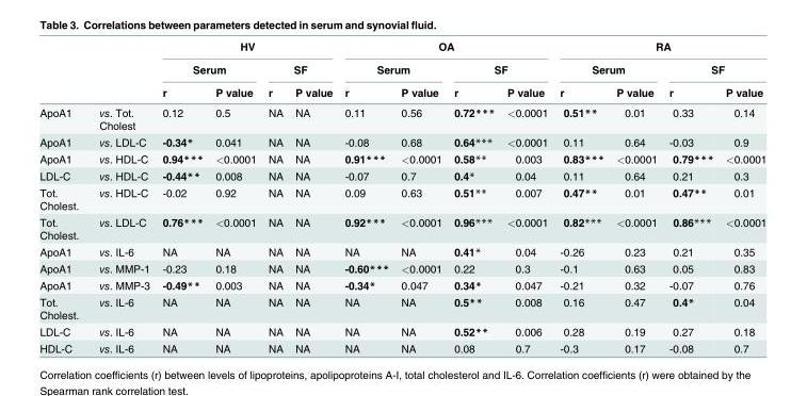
<table><thead><tr><td rowspan="3"></td><td rowspan="3"></td><td colspan="4">HV</td><td colspan="4">OA</td><td colspan="4">RA</td></tr><tr><td colspan="2">Serum</td><td colspan="2">SF</td><td colspan="2">Serum</td><td colspan="2">SF</td><td colspan="2">Serum</td><td colspan="2">SF</td></tr><tr><td>r</td><td>P value</td><td>r</td><td>P value</td><td>r</td><td>P value</td><td>r</td><td>P value</td><td>r</td><td>P value</td><td>r</td><td>P value</td></tr></thead><tbody><tr><td>ApoA1</td><td>vs. Tot. Cholest</td><td>0.12</td><td>0.5</td><td>NA</td><td>NA</td><td>0.11</td><td>0.56</td><td>0.72***</td><td>&lt;0.0001</td><td>0.51**</td><td>0.01</td><td>0.33</td><td>0.14</td></tr><tr><td>ApoA1</td><td>vs. LDL-C</td><td>-0.34*</td><td>0.041</td><td>NA</td><td>NA</td><td>-0.08</td><td>0.68</td><td>0.64***</td><td>&lt;0.0001</td><td>0.11</td><td>0.64</td><td>-0.03</td><td>0.9</td></tr><tr><td>ApoA1</td><td>vs. HDL-C</td><td>0.94***</td><td>&lt;0.0001</td><td>NA</td><td>NA</td><td>0.91***</td><td>&lt;0.0001</td><td>0.58**</td><td>0.003</td><td>0.83***</td><td>&lt;0.0001</td><td>0.79***</td><td>&lt;0.0001</td></tr><tr><td>LDL-C</td><td>vs. HDL-C</td><td>-0.44**</td><td>0.008</td><td>NA</td><td>NA</td><td>-0.07</td><td>0.7</td><td>0.4*</td><td>0.04</td><td>0.11</td><td>0.64</td><td>0.21</td><td>0.3</td></tr><tr><td>Tot. Cholest.</td><td>vs. HDL-C</td><td>-0.02</td><td>0.92</td><td>NA</td><td>NA</td><td>0.09</td><td>0.63</td><td>0.51**</td><td>0.007</td><td>0.47**</td><td>0.01</td><td>0.47**</td><td>0.01</td></tr><tr><td>Tot. Cholest.</td><td>vs. LDL-C</td><td>0.76***</td><td>&lt;0.0001</td><td>NA</td><td>NA</td><td>0.92***</td><td>&lt;0.0001</td><td>0.96***</td><td>&lt;0.0001</td><td>0.82***</td><td>&lt;0.0001</td><td>0.86***</td><td>&lt;0.0001</td></tr><tr><td>ApoA1</td><td>vs. IL-6</td><td>NA</td><td>NA</td><td>NA</td><td>NA</td><td>NA</td><td>NA</td><td>0.41*</td><td>0.04</td><td>-0.26</td><td>0.23</td><td>0.21</td><td>0.35</td></tr><tr><td>ApoA1</td><td>vs. MMP-1</td><td>-0.23</td><td>0.18</td><td>NA</td><td>NA</td><td>-0.60***</td><td>&lt;0.0001</td><td>0.22</td><td>0.3</td><td>-0.1</td><td>0.63</td><td>0.05</td><td>0.83</td></tr><tr><td>ApoA1</td><td>vs. MMP-3</td><td>-0.49**</td><td>0.003</td><td>NA</td><td>NA</td><td>-0.34*</td><td>0.047</td><td>0.34*</td><td>0.047</td><td>-0.21</td><td>0.32</td><td>-0.07</td><td>0.76</td></tr><tr><td>Tot. Cholest.</td><td>vs. IL-6</td><td>NA</td><td>NA</td><td>NA</td><td>NA</td><td>NA</td><td>NA</td><td>0.5**</td><td>0.008</td><td>0.16</td><td>0.47</td><td>0.4*</td><td>0.04</td></tr><tr><td>LDL-C</td><td>vs. IL-6</td><td>NA</td><td>NA</td><td>NA</td><td>NA</td><td>NA</td><td>NA</td><td>0.52**</td><td>0.006</td><td>0.28</td><td>0.19</td><td>0.27</td><td>0.18</td></tr><tr><td>HDL-C</td><td>vs. IL-6</td><td>NA</td><td>NA</td><td>NA</td><td>NA</td><td>NA</td><td>NA</td><td>0.08</td><td>0.7</td><td>-0.3</td><td>0.17</td><td>-0.08</td><td>0.7</td></tr></tbody></table>